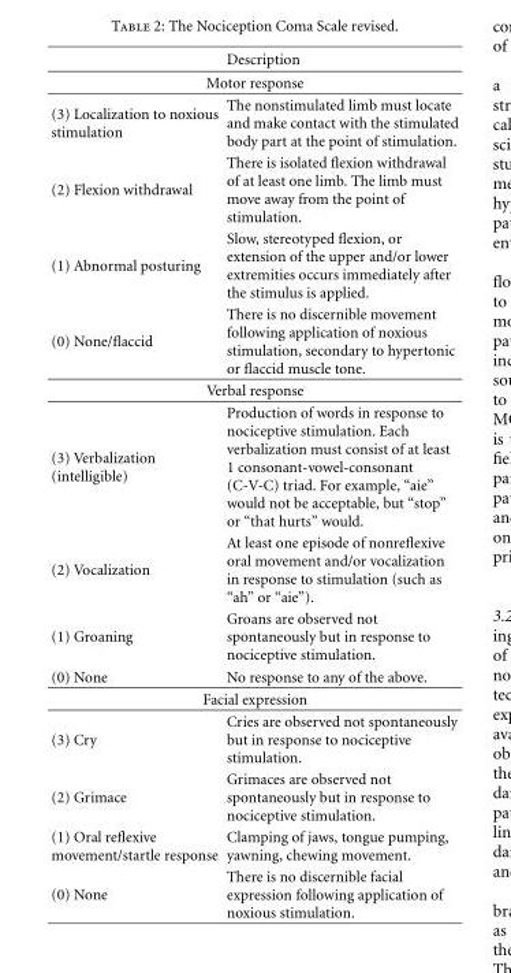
<table><thead><tr><td></td><td>Description</td></tr></thead><tbody><tr><td colspan="2">Motor response</td></tr><tr><td>(3) Localization to noxious stimulation</td><td>The nonstimulated limb must locate and make contact with the stimulated body part at the point of stimulation.</td></tr><tr><td>(2) Flexion withdrawal</td><td>There is isolated flexion withdrawal of at least one limb. The limb must move away from the point of stimulation.</td></tr><tr><td>(1) Abnormal posturing</td><td>Slow, stereotyped flexion, or extension of the upper and/or lower extremities occurs immediately after the stimulus is applied.</td></tr><tr><td>(0) None/flaccid</td><td>There is no discernible movement following application of noxious stimulation, secondary to hypertonic or flaccid muscle tone.</td></tr><tr><td colspan="2">Verbal response</td></tr><tr><td>(3) Verbalization (intelligible)</td><td>Production of words in response to nociceptive stimulation. Each verbalization must consist of at least 1 consonant-vowel-consonant (C-V-C) triad. For example, “aie” would not be acceptable, but “stop” or “that hurts” would.</td></tr><tr><td>(2) Vocalization</td><td>At least one episode of nonreflexive oral movement and/or vocalization in response to stimulation (such as “ah” or “aie”).</td></tr><tr><td>(1) Groaning</td><td>Groans are observed not spontaneously but in response to nociceptive stimulation.</td></tr><tr><td>(0) None</td><td>No response to any of the above.</td></tr><tr><td colspan="2">Facial expression</td></tr><tr><td>(3) Cry</td><td>Cries are observed not spontaneously but in response to nociceptive stimulation.</td></tr><tr><td>(2) Grimace</td><td>Grimaces are observed not spontaneously but in response to nociceptive stimulation.</td></tr><tr><td>(1) Oral reflexive movement/startle response</td><td>Clamping of jaws, tongue pumping, yawning, chewing movement.</td></tr><tr><td>(0) None</td><td>There is no discernible facial expression following application of noxious stimulation.</td></tr></tbody></table>